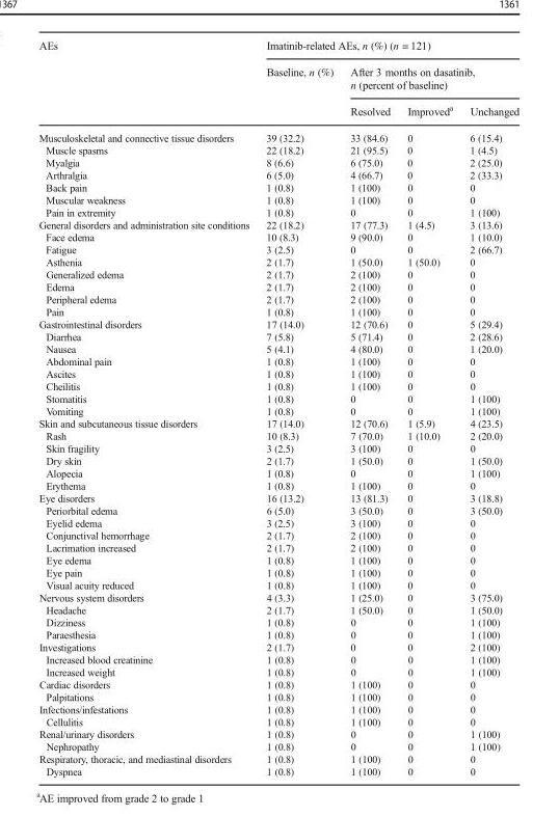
<table><thead><tr><td rowspan="3">AEs</td><td colspan="4">Imatinib-related AEs, n (%) (n = 121)</td></tr><tr><td rowspan="2">Baseline, n (%)</td><td colspan="3">After 3 months on dasatinib, n (percent of baseline)</td></tr><tr><td>Resolved</td><td>Improved<sup>a</sup></td><td>Unchanged</td></tr></thead><tbody><tr><td>Musculoskeletal and connective tissue disorders</td><td>39 (32.2)</td><td>33 (84.6)</td><td>0</td><td>6 (15.4)</td></tr><tr><td>Muscle spasms</td><td>22 (18.2)</td><td>21 (95.5)</td><td>0</td><td>1 (4.5)</td></tr><tr><td>Myalgia</td><td>8 (6.6)</td><td>6 (75.0)</td><td>0</td><td>2 (25.0)</td></tr><tr><td>Arthralgia</td><td>6 (5.0)</td><td>4 (66.7)</td><td>0</td><td>2 (33.3)</td></tr><tr><td>Back pain</td><td>1 (0.8)</td><td>1 (100)</td><td>0</td><td>0</td></tr><tr><td>Muscular weakness</td><td>1 (0.8)</td><td>1 (100)</td><td>0</td><td>0</td></tr><tr><td>Pain in extremity</td><td>1 (0.8)</td><td>0</td><td>0</td><td>1 (100)</td></tr><tr><td>General disorders and administration site conditions</td><td>22 (18.2)</td><td>17 (77.3)</td><td>1 (4.5)</td><td>3 (13.6)</td></tr><tr><td>Face edema</td><td>10 (8.3)</td><td>9 (90.0)</td><td>0</td><td>1 (10.0)</td></tr><tr><td>Fatigue</td><td>3 (2.5)</td><td>0</td><td>0</td><td>2 (66.7)</td></tr><tr><td>Asthenia</td><td>2 (1.7)</td><td>1 (50.0)</td><td>1 (50.0)</td><td>0</td></tr><tr><td>Generalized edema</td><td>2 (1.7)</td><td>2 (100)</td><td>0</td><td>0</td></tr><tr><td>Edema</td><td>2 (1.7)</td><td>2 (100)</td><td>0</td><td>0</td></tr><tr><td>Peripheral edema</td><td>2 (1.7)</td><td>2 (100)</td><td>0</td><td>0</td></tr><tr><td>Pain</td><td>1 (0.8)</td><td>1 (100)</td><td>0</td><td>0</td></tr><tr><td>Gastrointestinal disorders</td><td>17 (14.0)</td><td>12 (70.6)</td><td>0</td><td>5 (29.4)</td></tr><tr><td>Diarrhea</td><td>7 (5.8)</td><td>5 (71.4)</td><td>0</td><td>2 (28.6)</td></tr><tr><td>Nausea</td><td>5 (4.1)</td><td>4 (80.0)</td><td>0</td><td>1 (20.0)</td></tr><tr><td>Abdominal pain</td><td>1 (0.8)</td><td>1 (100)</td><td>0</td><td>0</td></tr><tr><td>Ascites</td><td>1 (0.8)</td><td>1 (100)</td><td>0</td><td>0</td></tr><tr><td>Cheilitis</td><td>1 (0.8)</td><td>1 (100)</td><td>0</td><td>0</td></tr><tr><td>Stomatitis</td><td>1 (0.8)</td><td>0</td><td>0</td><td>1 (100)</td></tr><tr><td>Vomiting</td><td>1 (0.8)</td><td>0</td><td>0</td><td>1 (100)</td></tr><tr><td>Skin and subcutaneous tissue disorders</td><td>17 (14.0)</td><td>12 (70.6)</td><td>1 (5.9)</td><td>4 (23.5)</td></tr><tr><td>Rash</td><td>10 (8.3)</td><td>7 (70.0)</td><td>1 (10.0)</td><td>2 (20.0)</td></tr><tr><td>Skin fragility</td><td>3 (2.5)</td><td>3 (100)</td><td>0</td><td>0</td></tr><tr><td>Dry skin</td><td>2 (1.7)</td><td>1 (50.0)</td><td>0</td><td>1 (50.0)</td></tr><tr><td>Alopecia</td><td>1 (0.8)</td><td>0</td><td>0</td><td>1 (100)</td></tr><tr><td>Erythema</td><td>1 (0.8)</td><td>1 (100)</td><td>0</td><td>0</td></tr><tr><td>Eye disorders</td><td>16 (13.2)</td><td>13 (81.3)</td><td>0</td><td>3 (18.8)</td></tr><tr><td>Periorbital edema</td><td>6 (5.0)</td><td>3 (50.0)</td><td>0</td><td>3 (50.0)</td></tr><tr><td>Eyelid edema</td><td>3 (2.5)</td><td>3 (100)</td><td>0</td><td>0</td></tr><tr><td>Conjunctival hemorrhage</td><td>2 (1.7)</td><td>2 (100)</td><td>0</td><td>0</td></tr><tr><td>Lacrimation increased</td><td>2 (1.7)</td><td>2 (100)</td><td>0</td><td>0</td></tr><tr><td>Eye edema</td><td>1 (0.8)</td><td>1 (100)</td><td>0</td><td>0</td></tr><tr><td>Eye pain</td><td>1 (0.8)</td><td>1 (100)</td><td>0</td><td>0</td></tr><tr><td>Visual acuity reduced</td><td>1 (0.8)</td><td>1 (100)</td><td>0</td><td>0</td></tr><tr><td>Nervous system disorders</td><td>4 (3.3)</td><td>1 (25.0)</td><td>0</td><td>3 (75.0)</td></tr><tr><td>Headache</td><td>2 (1.7)</td><td>1 (50.0)</td><td>0</td><td>1 (50.0)</td></tr><tr><td>Dizziness</td><td>1 (0.8)</td><td>0</td><td>0</td><td>1 (100)</td></tr><tr><td>Paraesthesia</td><td>1 (0.8)</td><td>0</td><td>0</td><td>1 (100)</td></tr><tr><td>Investigations</td><td>2 (1.7)</td><td>0</td><td>0</td><td>2 (100)</td></tr><tr><td>Increased blood creatinine</td><td>1 (0.8)</td><td>0</td><td>0</td><td>1 (100)</td></tr><tr><td>Increased weight</td><td>1 (0.8)</td><td>0</td><td>0</td><td>1 (100)</td></tr><tr><td>Cardiac disorders</td><td>1 (0.8)</td><td>1 (100)</td><td>0</td><td>0</td></tr><tr><td>Palpitations</td><td>1 (0.8)</td><td>1 (100)</td><td>0</td><td>0</td></tr><tr><td>Infections/infestations</td><td>1 (0.8)</td><td>1 (100)</td><td>0</td><td>0</td></tr><tr><td>Cellulitis</td><td>1 (0.8)</td><td>1 (100)</td><td>0</td><td>0</td></tr><tr><td>Renal/urinary disorders</td><td>1 (0.8)</td><td>0</td><td>0</td><td>1 (100)</td></tr><tr><td>Nephropathy</td><td>1 (0.8)</td><td>0</td><td>0</td><td>1 (100)</td></tr><tr><td>Respiratory, thoracic, and mediastinal disorders</td><td>1 (0.8)</td><td>1 (100)</td><td>0</td><td>0</td></tr><tr><td>Dyspnea</td><td>1 (0.8)</td><td>1 (100)</td><td>0</td><td>0</td></tr></tbody></table>